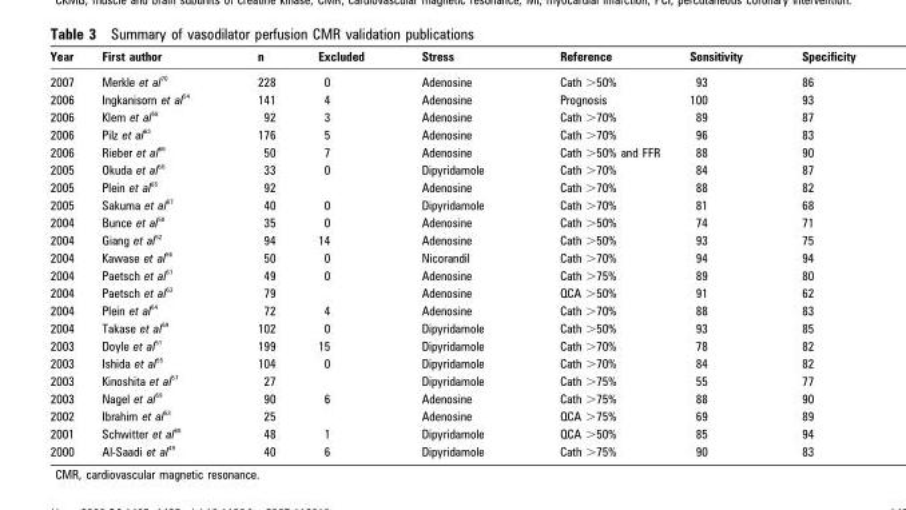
<table><thead><tr><td>Year</td><td>First author</td><td>n</td><td>Excluded</td><td>Stress</td><td>Reference</td><td>Sensitivity</td><td>Specificity</td></tr></thead><tbody><tr><td>2007</td><td>Merkle et al <sup>70</sup></td><td>228</td><td>0</td><td>Adenosine</td><td>Cath &gt;50%</td><td>93</td><td>86</td></tr><tr><td>2006</td><td>Ingkanisorn et al <sup>54</sup></td><td>141</td><td>4</td><td>Adenosine</td><td>Prognosis</td><td>100</td><td>93</td></tr><tr><td>2006</td><td>Klem et al <sup>58</sup></td><td>92</td><td>3</td><td>Adenosine</td><td>Cath &gt;70%</td><td>89</td><td>87</td></tr><tr><td>2006</td><td>Pilz et al <sup>63</sup></td><td>176</td><td>5</td><td>Adenosine</td><td>Cath &gt;70%</td><td>96</td><td>83</td></tr><tr><td>2006</td><td>Rieber et al <sup>66</sup></td><td>50</td><td>7</td><td>Adenosine</td><td>Cath &gt;50% and FFR</td><td>88</td><td>90</td></tr><tr><td>2005</td><td>Okuda et al <sup>60</sup></td><td>33</td><td>0</td><td>Dipyridamole</td><td>Cath &gt;70%</td><td>84</td><td>87</td></tr><tr><td>2005</td><td>Plein et al <sup>65</sup></td><td>92</td><td></td><td>Adenosine</td><td>Cath &gt;70%</td><td>88</td><td>82</td></tr><tr><td>2005</td><td>Sakuma et al <sup>67</sup></td><td>40</td><td>0</td><td>Dipyridamole</td><td>Cath &gt;70%</td><td>81</td><td>68</td></tr><tr><td>2004</td><td>Bunce et al <sup>50</sup></td><td>35</td><td>0</td><td>Adenosine</td><td>Cath &gt;50%</td><td>74</td><td>71</td></tr><tr><td>2004</td><td>Giang et al <sup>52</sup></td><td>94</td><td>14</td><td>Adenosine</td><td>Cath &gt;50%</td><td>93</td><td>75</td></tr><tr><td>2004</td><td>Kawase et al <sup>56</sup></td><td>50</td><td>0</td><td>Nicorandil</td><td>Cath &gt;70%</td><td>94</td><td>94</td></tr><tr><td>2004</td><td>Paetsch et al <sup>61</sup></td><td>49</td><td>0</td><td>Adenosine</td><td>Cath &gt;75%</td><td>89</td><td>80</td></tr><tr><td>2004</td><td>Paetsch et al <sup>62</sup></td><td>79</td><td></td><td>Adenosine</td><td>QCA &gt;50%</td><td>91</td><td>62</td></tr><tr><td>2004</td><td>Plein et al <sup>64</sup></td><td>72</td><td>4</td><td>Adenosine</td><td>Cath &gt;70%</td><td>88</td><td>83</td></tr><tr><td>2004</td><td>Takase et al <sup>69</sup></td><td>102</td><td>0</td><td>Dipyridamole</td><td>Cath &gt;50%</td><td>93</td><td>85</td></tr><tr><td>2003</td><td>Doyle et al <sup>51</sup></td><td>199</td><td>15</td><td>Dipyridamole</td><td>Cath &gt;70%</td><td>78</td><td>82</td></tr><tr><td>2003</td><td>Ishida et al <sup>55</sup></td><td>104</td><td>0</td><td>Dipyridamole</td><td>Cath &gt;70%</td><td>84</td><td>82</td></tr><tr><td>2003</td><td>Kinoshita et al <sup>57</sup></td><td>27</td><td></td><td>Dipyridamole</td><td>Cath &gt;75%</td><td>55</td><td>77</td></tr><tr><td>2003</td><td>Nagel et al <sup>59</sup></td><td>90</td><td>6</td><td>Adenosine</td><td>Cath &gt;75%</td><td>88</td><td>90</td></tr><tr><td>2002</td><td>Ibrahim et al <sup>53</sup></td><td>25</td><td></td><td>Adenosine</td><td>QCA &gt;75%</td><td>69</td><td>89</td></tr><tr><td>2001</td><td>Schwitter et al <sup>68</sup></td><td>48</td><td>1</td><td>Dipyridamole</td><td>QCA &gt;50%</td><td>85</td><td>94</td></tr><tr><td>2000</td><td>Al-Saadi et al <sup>49</sup></td><td>40</td><td>6</td><td>Dipyridamole</td><td>Cath &gt;75%</td><td>90</td><td>83</td></tr></tbody></table>